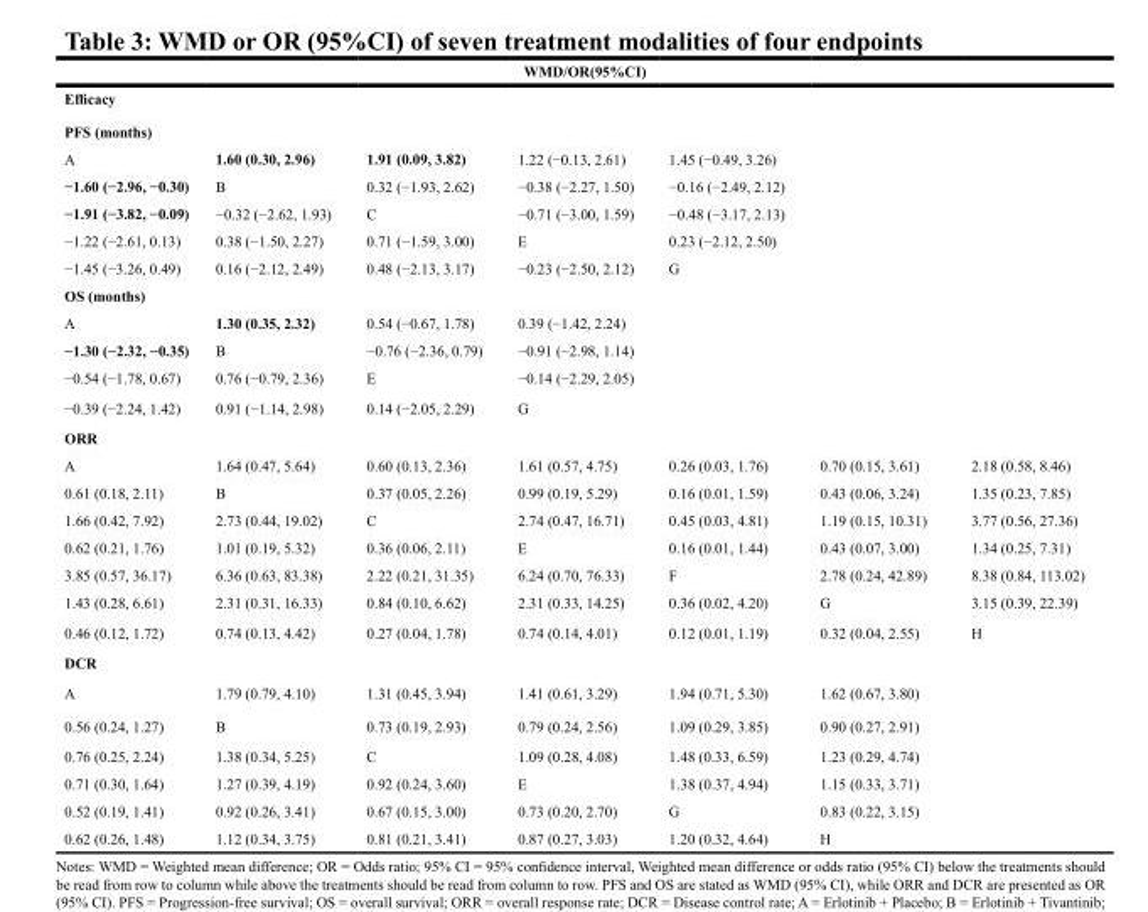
<table><thead><tr><td rowspan="3" colspan="7">WMD/OR(95%CI) Efficacy PFS (months)</td></tr><tr></tr><tr></tr><tr><td>A</td><td>1.60 (0.30, 2.96)</td><td>1.91 (0.09, 3.82)</td><td>1.22 (−0.13, 2.61)</td><td>1.45 (−0.49, 3.26)</td><td></td><td></td></tr></thead><tbody><tr><td>−1.60 (−2.96, −0.30)</td><td>B</td><td>0.32 (−1.93, 2.62)</td><td>−0.38 (−2.27, 1.50)</td><td>−0.16 (−2.49, 2.12)</td><td></td><td></td></tr><tr><td>−1.91 (−3.82, −0.09)</td><td>−0.32 (−2.62, 1.93)</td><td>C</td><td>−0.71 (−3.00, 1.59)</td><td>−0.48 (−3.17, 2.13)</td><td></td><td></td></tr><tr><td>−1.22 (−2.61, 0.13)</td><td>0.38 (−1.50, 2.27)</td><td>0.71 (−1.59, 3.00)</td><td>E</td><td>0.23 (−2.12, 2.50)</td><td></td><td></td></tr><tr><td>−1.45 (−3.26, 0.49)</td><td>0.16 (−2.12, 2.49)</td><td>0.48 (−2.13, 3.17)</td><td>−0.23 (−2.50, 2.12)</td><td>G</td><td></td><td></td></tr><tr><td colspan="7">OS (months)</td></tr><tr><td>A</td><td>1.30 (0.35, 2.32)</td><td>0.54 (−0.67, 1.78)</td><td>0.39 (−1.42, 2.24)</td><td></td><td></td><td></td></tr><tr><td>−1.30 (−2.32, −0.35)</td><td>B</td><td>−0.76 (−2.36, 0.79)</td><td>−0.91 (−2.98, 1.14)</td><td></td><td></td><td></td></tr><tr><td>−0.54 (−1.78, 0.67)</td><td>0.76 (−0.79, 2.36)</td><td>E</td><td>−0.14 (−2.29, 2.05)</td><td></td><td></td><td></td></tr><tr><td>−0.39 (−2.24, 1.42)</td><td>0.91 (−1.14, 2.98)</td><td>0.14 (−2.05, 2.29)</td><td>G</td><td></td><td></td><td></td></tr><tr><td colspan="7">ORR</td></tr><tr><td>A</td><td>1.64 (0.47, 5.64)</td><td>0.60 (0.13, 2.36)</td><td>1.61 (0.57, 4.75)</td><td>0.26 (0.03, 1.76)</td><td>0.70 (0.15, 3.61)</td><td>2.18 (0.58, 8.46)</td></tr><tr><td>0.61 (0.18, 2.11)</td><td>B</td><td>0.37 (0.05, 2.26)</td><td>0.99 (0.19, 5.29)</td><td>0.16 (0.01, 1.59)</td><td>0.43 (0.06, 3.24)</td><td>1.35 (0.23, 7.85)</td></tr><tr><td>1.66 (0.42, 7.92)</td><td>2.73 (0.44, 19.02)</td><td>C</td><td>2.74 (0.47, 16.71)</td><td>0.45 (0.03, 4.81)</td><td>1.19 (0.15, 10.31)</td><td>3.77 (0.56, 27.36)</td></tr><tr><td>0.62 (0.21, 1.76)</td><td>1.01 (0.19, 5.32)</td><td>0.36 (0.06, 2.11)</td><td>E</td><td>0.16 (0.01, 1.44)</td><td>0.43 (0.07, 3.00)</td><td>1.34 (0.25, 7.31)</td></tr><tr><td>3.85 (0.57, 36.17)</td><td>6.36 (0.63, 83.38)</td><td>2.22 (0.21, 31.35)</td><td>6.24 (0.70, 76.33)</td><td>F</td><td>2.78 (0.24, 42.89)</td><td>8.38 (0.84, 113.02)</td></tr><tr><td>1.43 (0.28, 6.61)</td><td>2.31 (0.31, 16.33)</td><td>0.84 (0.10, 6.62)</td><td>2.31 (0.33, 14.25)</td><td>0.36 (0.02, 4.20)</td><td>G</td><td>3.15 (0.39, 22.39)</td></tr><tr><td>0.46 (0.12, 1.72)</td><td>0.74 (0.13, 4.42)</td><td>0.27 (0.04, 1.78)</td><td>0.74 (0.14, 4.01)</td><td>0.12 (0.01, 1.19)</td><td>0.32 (0.04, 2.55)</td><td>H</td></tr><tr><td colspan="7">DCR</td></tr><tr><td>A</td><td>1.79 (0.79, 4.10)</td><td>1.31 (0.45, 3.94)</td><td>1.41 (0.61, 3.29)</td><td>1.94 (0.71, 5.30)</td><td>1.62 (0.67, 3.80)</td><td rowspan="6"></td></tr><tr><td>0.56 (0.24, 1.27)</td><td>B</td><td>0.73 (0.19, 2.93)</td><td>0.79 (0.24, 2.56)</td><td>1.09 (0.29, 3.85)</td><td>0.90 (0.27, 2.91)</td></tr><tr><td>0.76 (0.25, 2.24)</td><td>1.38 (0.34, 5.25)</td><td>C</td><td>1.09 (0.28, 4.08)</td><td>1.48 (0.33, 6.59)</td><td>1.23 (0.29, 4.74)</td></tr><tr><td>0.71 (0.30, 1.64)</td><td>1.27 (0.39, 4.19)</td><td>0.92 (0.24, 3.60)</td><td>E</td><td>1.38 (0.37, 4.94)</td><td>1.15 (0.33, 3.71)</td></tr><tr><td>0.52 (0.19, 1.41)</td><td>0.92 (0.26, 3.41)</td><td>0.67 (0.15, 3.00)</td><td>0.73 (0.20, 2.70)</td><td>G</td><td>0.83 (0.22, 3.15)</td></tr><tr><td>0.62 (0.26, 1.48)</td><td>1.12 (0.34, 3.75)</td><td>0.81 (0.21, 3.41)</td><td>0.87 (0.27, 3.03)</td><td>1.20 (0.32, 4.64)</td><td>H</td></tr></tbody></table>